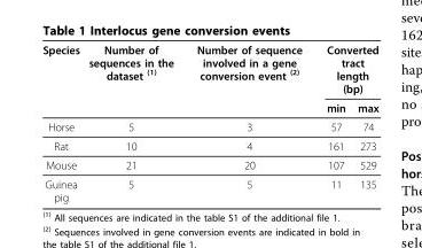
<table><thead><tr><td rowspan="2">Species</td><td rowspan="2">Number of sequences in the dataset <sup>(1)</sup></td><td rowspan="2">Number of sequence involved in a gene conversion event <sup>(2)</sup></td><td colspan="2">Converted tract length (bp)</td></tr><tr><td>min</td><td>max</td></tr></thead><tbody><tr><td>Horse</td><td>5</td><td>3</td><td>57</td><td>74</td></tr><tr><td>Rat</td><td>10</td><td>4</td><td>161</td><td>273</td></tr><tr><td>Mouse</td><td>21</td><td>20</td><td>107</td><td>529</td></tr><tr><td>Guinea pig</td><td>5</td><td>5</td><td>11</td><td>135</td></tr></tbody></table>